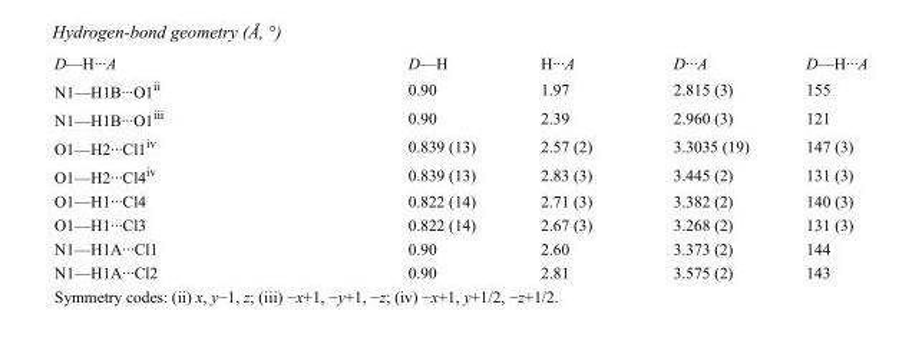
<table><tbody><tr><td>D—H···A</td><td>D—H</td><td>H···A</td><td>D···A</td><td>D—H···A</td></tr><tr><td>N1—H1B···O1<sup>ii</sup></td><td>0.90</td><td>1.97</td><td>2.815 (3)</td><td>155</td></tr><tr><td>N1—H1B···O1<sup>iii</sup></td><td>0.90</td><td>2.39</td><td>2.960 (3)</td><td>121</td></tr><tr><td>O1—H2···Cl1<sup>iv</sup></td><td>0.839 (13)</td><td>2.57 (2)</td><td>3.3035 (19)</td><td>147 (3)</td></tr><tr><td>O1—H2···Cl4<sup>iv</sup></td><td>0.839 (13)</td><td>2.83 (3)</td><td>3.445 (2)</td><td>131 (3)</td></tr><tr><td>O1—H1···Cl4</td><td>0.822 (14)</td><td>2.71 (3)</td><td>3.382 (2)</td><td>140 (3)</td></tr><tr><td>O1—H1···Cl3</td><td>0.822 (14)</td><td>2.67 (3)</td><td>3.268 (2)</td><td>131 (3)</td></tr><tr><td>N1—H1A···Cl1</td><td>0.90</td><td>2.60</td><td>3.373 (2)</td><td>144</td></tr><tr><td>N1—H1A···Cl2</td><td>0.90</td><td>2.81</td><td>3.575 (2)</td><td>143</td></tr></tbody></table>